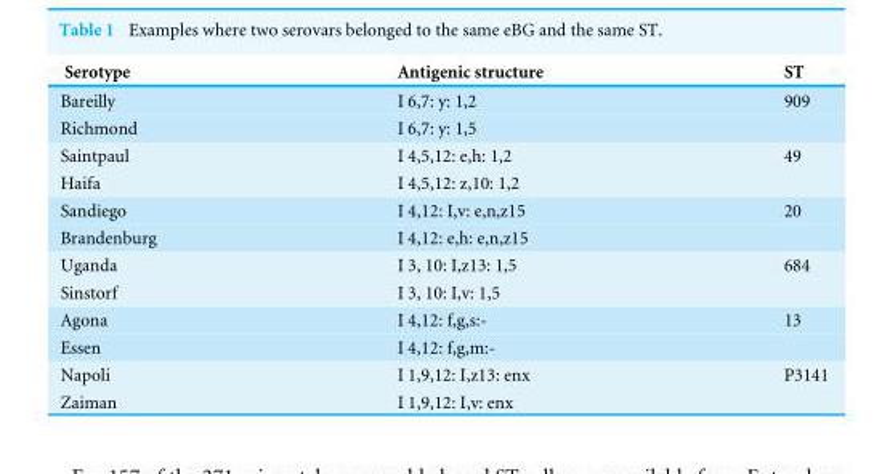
<table><thead><tr><td>Serotype</td><td>Antigenic structure</td><td>ST</td></tr></thead><tbody><tr><td>Bareilly</td><td>I 6,7: y: 1,2</td><td>909</td></tr><tr><td>Richmond</td><td>I 6,7: y: 1,5</td><td></td></tr><tr><td>Saintpaul</td><td>I 4,5,12: e,h: 1,2</td><td>49</td></tr><tr><td>Haifa</td><td>I 4,5,12: z,10: 1,2</td><td></td></tr><tr><td>Sandiego</td><td>I 4,12: I,v: e,n,z15</td><td>20</td></tr><tr><td>Brandenburg</td><td>I 4,12: e,h: e,n,z15</td><td></td></tr><tr><td>Uganda</td><td>I 3, 10: I,z13: 1,5</td><td>684</td></tr><tr><td>Sinstorf</td><td>I 3, 10: I,v: 1,5</td><td></td></tr><tr><td>Agona</td><td>I 4,12: f,g,s:-</td><td>13</td></tr><tr><td>Essen</td><td>I 4,12: f,g,m:-</td><td></td></tr><tr><td>Napoli</td><td>I 1,9,12: I,z13: enx</td><td>P3141</td></tr><tr><td>Zaiman</td><td>I 1,9,12: I,v: enx</td><td></td></tr></tbody></table>